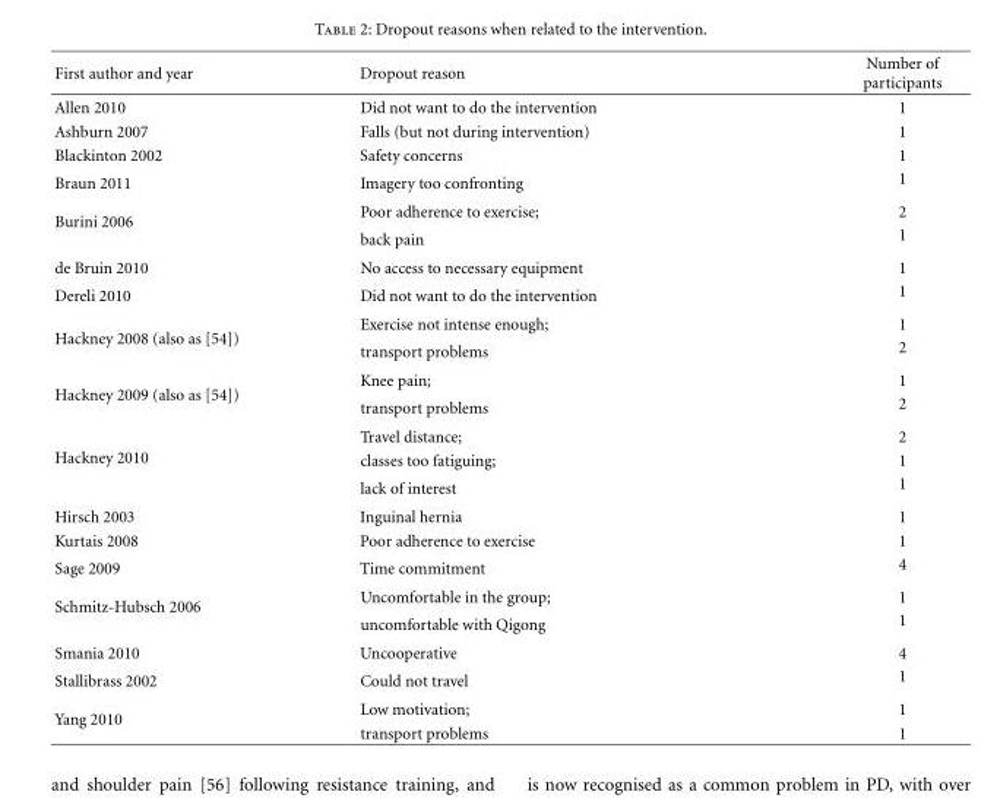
<table><thead><tr><td>First author and year</td><td>Dropout reason</td><td>Number of participants</td></tr></thead><tbody><tr><td>Allen 2010</td><td>Did not want to do the intervention</td><td>1</td></tr><tr><td>Ashburn 2007</td><td>Falls (but not during intervention)</td><td>1</td></tr><tr><td>Blackinton 2002</td><td>Safety concerns</td><td>1</td></tr><tr><td>Braun 2011</td><td>Imagery too confronting</td><td>1</td></tr><tr><td rowspan="2">Burini 2006</td><td>Poor adherence to exercise;</td><td>2</td></tr><tr><td>back pain</td><td>1</td></tr><tr><td>de Bruin 2010</td><td>No access to necessary equipment</td><td>1</td></tr><tr><td>Dereli 2010</td><td>Did not want to do the intervention</td><td>1</td></tr><tr><td rowspan="2">Hackney 2008 (also as [54])</td><td>Exercise not intense enough;</td><td>1</td></tr><tr><td>transport problems</td><td>2</td></tr><tr><td rowspan="2">Hackney 2009 (also as [54])</td><td>Knee pain;</td><td>1</td></tr><tr><td>transport problems</td><td>2</td></tr><tr><td rowspan="3">Hackney 2010</td><td>Travel distance;</td><td>2</td></tr><tr><td>classes too fatiguing;</td><td>1</td></tr><tr><td>lack of interest</td><td>1</td></tr><tr><td>Hirsch 2003</td><td>Inguinal hernia</td><td>1</td></tr><tr><td>Kurtais 2008</td><td>Poor adherence to exercise</td><td>1</td></tr><tr><td>Sage 2009</td><td>Time commitment</td><td>4</td></tr><tr><td rowspan="2">Schmitz-Hubsch 2006</td><td>Uncomfortable in the group;</td><td>1</td></tr><tr><td>uncomfortable with Qigong</td><td>1</td></tr><tr><td>Smania 2010</td><td>Uncooperative</td><td>4</td></tr><tr><td>Stallibrass 2002</td><td>Could not travel</td><td>1</td></tr><tr><td rowspan="2">Yang 2010</td><td>Low motivation;</td><td>1</td></tr><tr><td>transport problems</td><td>1</td></tr></tbody></table>